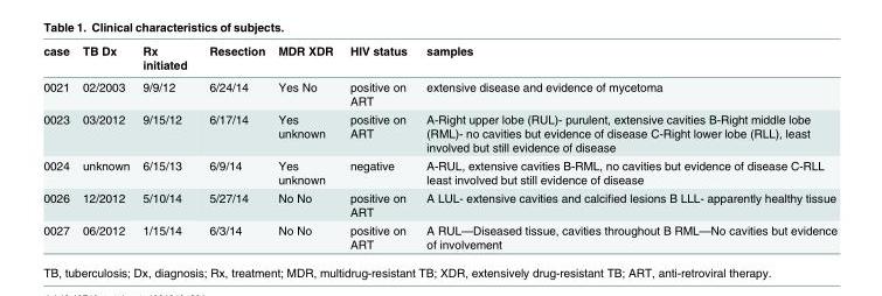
<table><thead><tr><td>case</td><td>TB Dx</td><td>Rx initiated</td><td>Resection</td><td>MDR XDR</td><td>HIV status</td><td>samples</td></tr></thead><tbody><tr><td>0021</td><td>02/2003</td><td>9/9/12</td><td>6/24/14</td><td>Yes No</td><td>positive on ART</td><td>extensive disease and evidence of mycetoma</td></tr><tr><td>0023</td><td>03/2012</td><td>9/15/12</td><td>6/17/14</td><td>Yes unknown</td><td>positive on ART</td><td>A-Right upper lobe (RUL)- purulent, extensive cavities B-Right middle lobe (RML)- no cavities but evidence of disease C-Right lower lobe (RLL), least involved but still evidence of disease</td></tr><tr><td>0024</td><td>unknown</td><td>6/15/13</td><td>6/9/14</td><td>Yes unknown</td><td>negative</td><td>A-RUL, extensive cavities B-RML, no cavities but evidence of disease C-RLL least involved but still evidence of disease</td></tr><tr><td>0026</td><td>12/2012</td><td>5/10/14</td><td>5/27/14</td><td>No No</td><td>positive on ART</td><td>A LUL- extensive cavities and calcified lesions B LLL- apparently healthy tissue</td></tr><tr><td>0027</td><td>06/2012</td><td>1/15/14</td><td>6/3/14</td><td>No No</td><td>positive on ART</td><td>A RUL—Diseased tissue, cavities throughout B RML—No cavities but evidence of involvement</td></tr></tbody></table>